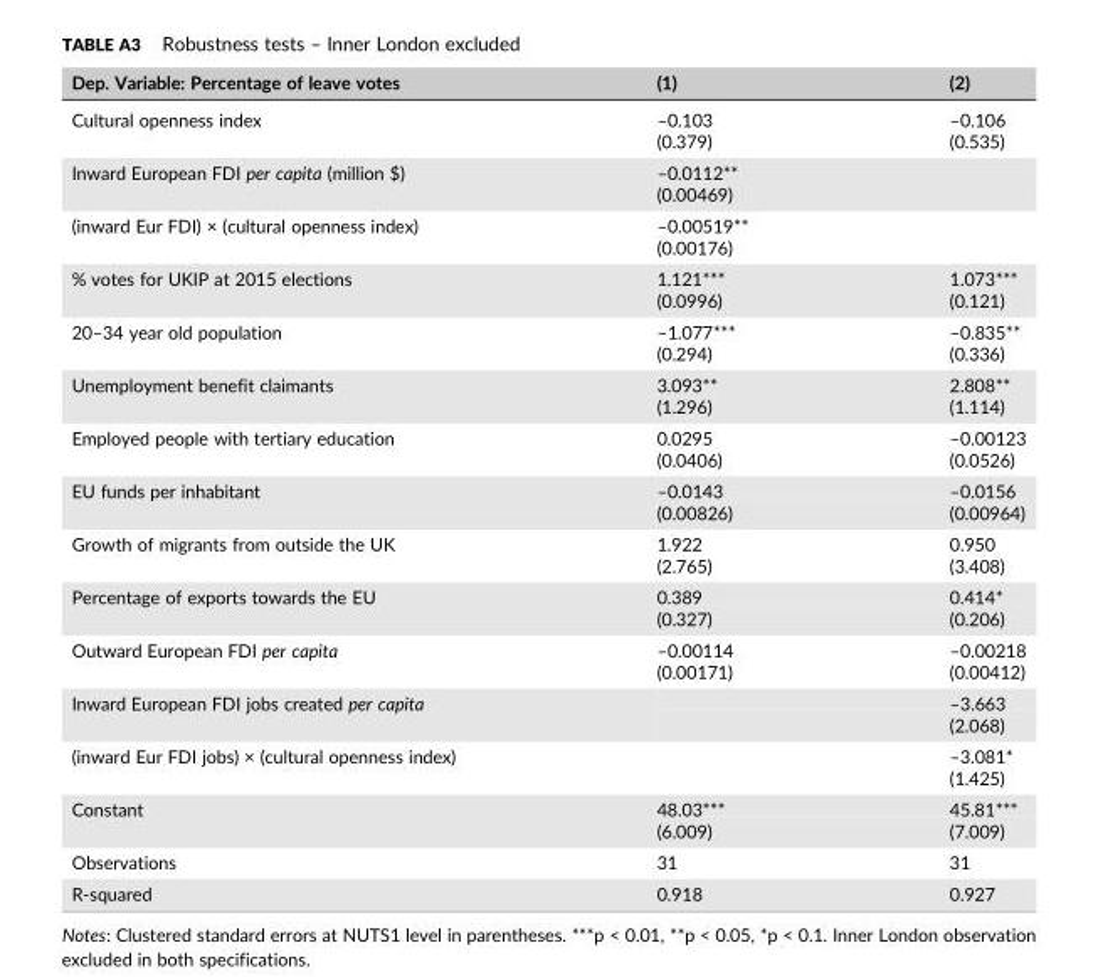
<table><thead><tr><td>Dep. Variable: Percentage of leave votes</td><td>(1)</td><td>(2)</td></tr></thead><tbody><tr><td rowspan="2">Cultural openness index</td><td>–0.103</td><td>–0.106</td></tr><tr><td>(0.379)</td><td>(0.535)</td></tr><tr><td rowspan="2">Inward European FDI per capita (million $)</td><td>–0.0112**</td><td></td></tr><tr><td>(0.00469)</td><td></td></tr><tr><td rowspan="2">(inward Eur FDI) × (cultural openness index)</td><td>–0.00519**</td><td></td></tr><tr><td>(0.00176)</td><td></td></tr><tr><td rowspan="2">% votes for UKIP at 2015 elections</td><td>1.121***</td><td>1.073***</td></tr><tr><td>(0.0996)</td><td>(0.121)</td></tr><tr><td rowspan="2">20–34 year old population</td><td>–1.077***</td><td>–0.835**</td></tr><tr><td>(0.294)</td><td>(0.336)</td></tr><tr><td rowspan="2">Unemployment benefit claimants</td><td>3.093**</td><td>2.808**</td></tr><tr><td>(1.296)</td><td>(1.114)</td></tr><tr><td rowspan="2">Employed people with tertiary education</td><td>0.0295</td><td>–0.00123</td></tr><tr><td>(0.0406)</td><td>(0.0526)</td></tr><tr><td rowspan="2">EU funds per inhabitant</td><td>–0.0143</td><td>–0.0156</td></tr><tr><td>(0.00826)</td><td>(0.00964)</td></tr><tr><td rowspan="2">Growth of migrants from outside the UK</td><td>1.922</td><td>0.950</td></tr><tr><td>(2.765)</td><td>(3.408)</td></tr><tr><td rowspan="2">Percentage of exports towards the EU</td><td>0.389</td><td>0.414*</td></tr><tr><td>(0.327)</td><td>(0.206)</td></tr><tr><td rowspan="2">Outward European FDI per capita</td><td>–0.00114</td><td>–0.00218</td></tr><tr><td>(0.00171)</td><td>(0.00412)</td></tr><tr><td rowspan="2">Inward European FDI jobs created per capita</td><td></td><td>–3.663</td></tr><tr><td></td><td>(2.068)</td></tr><tr><td rowspan="2">(inward Eur FDI jobs) × (cultural openness index)</td><td></td><td>–3.081*</td></tr><tr><td></td><td>(1.425)</td></tr><tr><td rowspan="2">Constant</td><td>48.03***</td><td>45.81***</td></tr><tr><td>(6.009)</td><td>(7.009)</td></tr><tr><td>Observations</td><td>31</td><td>31</td></tr><tr><td>R‐squared</td><td>0.918</td><td>0.927</td></tr></tbody></table>